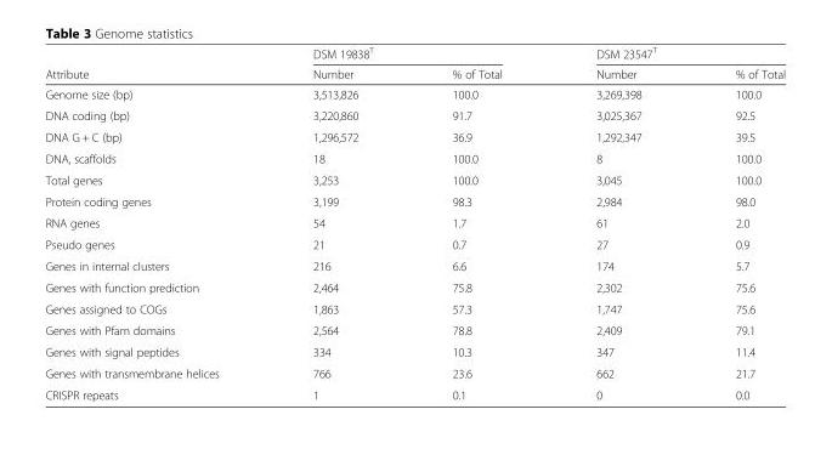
<table><thead><tr><td rowspan="2">Attribute</td><td colspan="2">DSM 19838<sup>T</sup></td><td colspan="2">DSM 23547<sup>T</sup></td></tr><tr><td>Number</td><td>% of Total</td><td>Number</td><td>% of Total</td></tr></thead><tbody><tr><td>Genome size (bp)</td><td>3,513,826</td><td>100.0</td><td>3,269,398</td><td>100.0</td></tr><tr><td>DNA coding (bp)</td><td>3,220,860</td><td>91.7</td><td>3,025,367</td><td>92.5</td></tr><tr><td>DNA G + C (bp)</td><td>1,296,572</td><td>36.9</td><td>1,292,347</td><td>39.5</td></tr><tr><td>DNA, scaffolds</td><td>18</td><td>100.0</td><td>8</td><td>100.0</td></tr><tr><td>Total genes</td><td>3,253</td><td>100.0</td><td>3,045</td><td>100.0</td></tr><tr><td>Protein coding genes</td><td>3,199</td><td>98.3</td><td>2,984</td><td>98.0</td></tr><tr><td>RNA genes</td><td>54</td><td>1.7</td><td>61</td><td>2.0</td></tr><tr><td>Pseudo genes</td><td>21</td><td>0.7</td><td>27</td><td>0.9</td></tr><tr><td>Genes in internal clusters</td><td>216</td><td>6.6</td><td>174</td><td>5.7</td></tr><tr><td>Genes with function prediction</td><td>2,464</td><td>75.8</td><td>2,302</td><td>75.6</td></tr><tr><td>Genes assigned to COGs</td><td>1,863</td><td>57.3</td><td>1,747</td><td>75.6</td></tr><tr><td>Genes with Pfam domains</td><td>2,564</td><td>78.8</td><td>2,409</td><td>79.1</td></tr><tr><td>Genes with signal peptides</td><td>334</td><td>10.3</td><td>347</td><td>11.4</td></tr><tr><td>Genes with transmembrane helices</td><td>766</td><td>23.6</td><td>662</td><td>21.7</td></tr><tr><td>CRISPR repeats</td><td>1</td><td>0.1</td><td>0</td><td>0.0</td></tr></tbody></table>